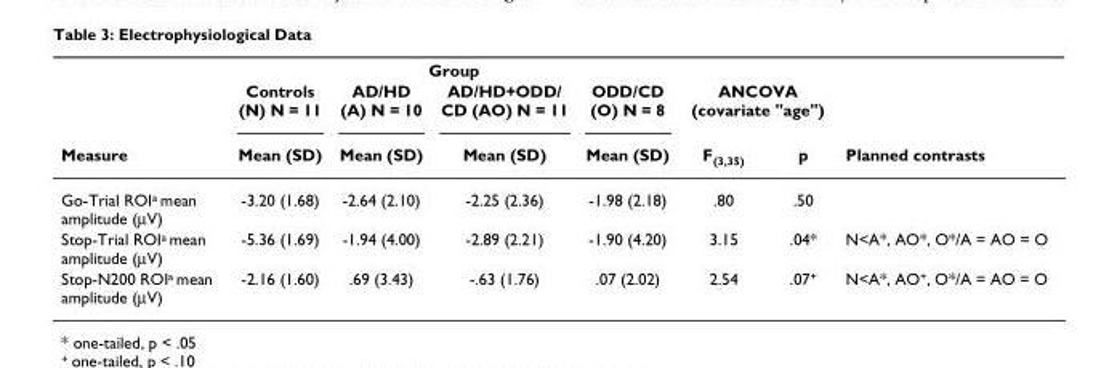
<table><thead><tr><td rowspan="3">Measure</td><td colspan="4">Group</td><td></td><td></td><td rowspan="3">Planned contrasts</td></tr><tr><td rowspan="2">Controls (N) N = 11 Mean (SD)</td><td rowspan="2">AD/HD (A) N = 10 Mean (SD)</td><td rowspan="2">AD/HD+ODD/ CD (AO) N = 11 Mean (SD)</td><td rowspan="2">ODD/CD (O) N = 8 Mean (SD)</td><td colspan="2">ANCOVA (covariate &quot;age&quot;)</td></tr><tr><td>F<sub>(3,35)</sub></td><td>p</td></tr></thead><tbody><tr><td>Go-Trial ROI<sup>a</sup> mean amplitude (µV)</td><td>-3.20 (1.68)</td><td>-2.64 (2.10)</td><td>-2.25 (2.36)</td><td>-1.98 (2.18)</td><td>.80</td><td>.50</td><td></td></tr><tr><td>Stop-Trial ROI<sup>a</sup> mean amplitude (µV)</td><td>-5.36 (1.69)</td><td>-1.94 (4.00)</td><td>-2.89 (2.21)</td><td>-1.90 (4.20)</td><td>3.15</td><td>.04*</td><td>N&lt;A*, AO*, O*/A = AO = O</td></tr><tr><td>Stop-N200 ROI<sup>a</sup> mean amplitude (µV)</td><td>-2.16 (1.60)</td><td>.69 (3.43)</td><td>-.63 (1.76)</td><td>.07 (2.02)</td><td>2.54</td><td>.07<sup>+</sup></td><td>N&lt;A*, AO<sup>+</sup>, O*/A = AO = O</td></tr></tbody></table>